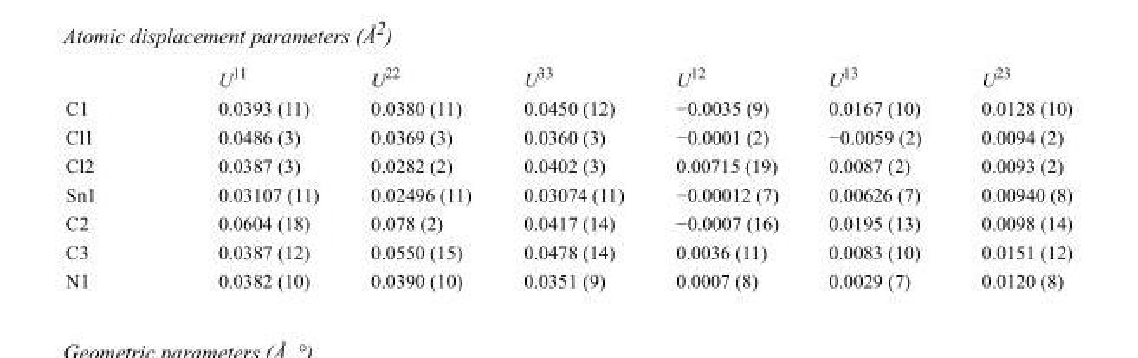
<table><thead><tr><td></td><td>U<sup>11</sup></td><td>U<sup>22</sup></td><td>U<sup>33</sup></td><td>U<sup>12</sup></td><td>U<sup>13</sup></td><td>U<sup>23</sup></td></tr></thead><tbody><tr><td>C1</td><td>0.0393 (11)</td><td>0.0380 (11)</td><td>0.0450 (12)</td><td>−0.0035 (9)</td><td>0.0167 (10)</td><td>0.0128 (10)</td></tr><tr><td>Cl1</td><td>0.0486 (3)</td><td>0.0369 (3)</td><td>0.0360 (3)</td><td>−0.0001 (2)</td><td>−0.0059 (2)</td><td>0.0094 (2)</td></tr><tr><td>Cl2</td><td>0.0387 (3)</td><td>0.0282 (2)</td><td>0.0402 (3)</td><td>0.00715 (19)</td><td>0.0087 (2)</td><td>0.0093 (2)</td></tr><tr><td>Sn1</td><td>0.03107 (11)</td><td>0.02496 (11)</td><td>0.03074 (11)</td><td>−0.00012 (7)</td><td>0.00626 (7)</td><td>0.00940 (8)</td></tr><tr><td>C2</td><td>0.0604 (18)</td><td>0.078 (2)</td><td>0.0417 (14)</td><td>−0.0007 (16)</td><td>0.0195 (13)</td><td>0.0098 (14)</td></tr><tr><td>C3</td><td>0.0387 (12)</td><td>0.0550 (15)</td><td>0.0478 (14)</td><td>0.0036 (11)</td><td>0.0083 (10)</td><td>0.0151 (12)</td></tr><tr><td>N1</td><td>0.0382 (10)</td><td>0.0390 (10)</td><td>0.0351 (9)</td><td>0.0007 (8)</td><td>0.0029 (7)</td><td>0.0120 (8)</td></tr></tbody></table>